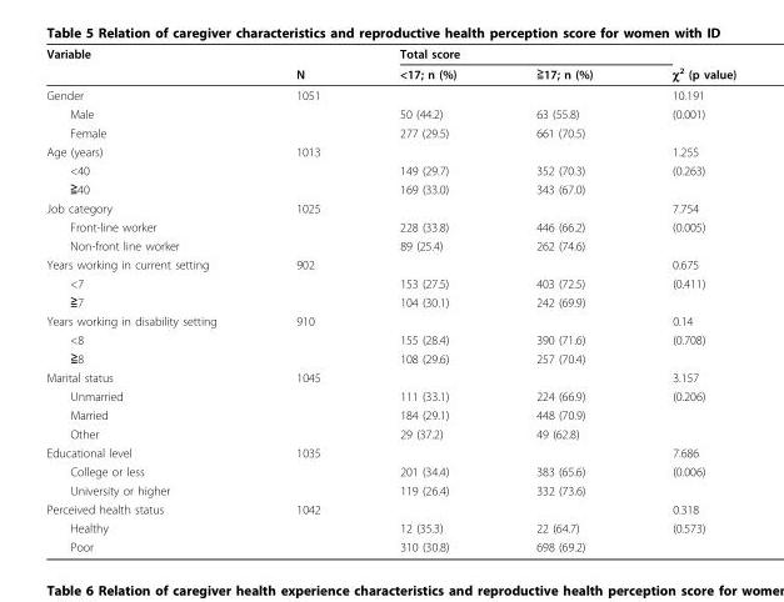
<table><thead><tr><td rowspan="2">Variable</td><td rowspan="2">N</td><td colspan="2">Total score</td><td rowspan="2">χ<sup>2</sup> (p value)</td></tr><tr><td>&lt;17; n (%)</td><td>≧17; n (%)</td></tr></thead><tbody><tr><td>Gender</td><td>1051</td><td></td><td></td><td>10.191</td></tr><tr><td>Male</td><td></td><td>50 (44.2)</td><td>63 (55.8)</td><td>(0.001)</td></tr><tr><td>Female</td><td></td><td>277 (29.5)</td><td>661 (70.5)</td><td></td></tr><tr><td>Age (years)</td><td>1013</td><td></td><td></td><td>1.255</td></tr><tr><td>&lt;40</td><td></td><td>149 (29.7)</td><td>352 (70.3)</td><td>(0.263)</td></tr><tr><td>≧40</td><td></td><td>169 (33.0)</td><td>343 (67.0)</td><td></td></tr><tr><td>Job category</td><td>1025</td><td></td><td></td><td>7.754</td></tr><tr><td>Front-line worker</td><td></td><td>228 (33.8)</td><td>446 (66.2)</td><td>(0.005)</td></tr><tr><td>Non-front line worker</td><td></td><td>89 (25.4)</td><td>262 (74.6)</td><td></td></tr><tr><td>Years working in current setting</td><td>902</td><td></td><td></td><td>0.675</td></tr><tr><td>&lt;7</td><td></td><td>153 (27.5)</td><td>403 (72.5)</td><td>(0.411)</td></tr><tr><td>≧7</td><td></td><td>104 (30.1)</td><td>242 (69.9)</td><td></td></tr><tr><td>Years working in disability setting</td><td>910</td><td></td><td></td><td>0.14</td></tr><tr><td>&lt;8</td><td></td><td>155 (28.4)</td><td>390 (71.6)</td><td>(0.708)</td></tr><tr><td>≧8</td><td></td><td>108 (29.6)</td><td>257 (70.4)</td><td></td></tr><tr><td>Marital status</td><td>1045</td><td></td><td></td><td>3.157</td></tr><tr><td>Unmarried</td><td></td><td>111 (33.1)</td><td>224 (66.9)</td><td>(0.206)</td></tr><tr><td>Married</td><td></td><td>184 (29.1)</td><td>448 (70.9)</td><td></td></tr><tr><td>Other</td><td></td><td>29 (37.2)</td><td>49 (62.8)</td><td></td></tr><tr><td>Educational level</td><td>1035</td><td></td><td></td><td>7.686</td></tr><tr><td>College or less</td><td></td><td>201 (34.4)</td><td>383 (65.6)</td><td>(0.006)</td></tr><tr><td>University or higher</td><td></td><td>119 (26.4)</td><td>332 (73.6)</td><td></td></tr><tr><td>Perceived health status</td><td>1042</td><td></td><td></td><td>0.318</td></tr><tr><td>Healthy</td><td></td><td>12 (35.3)</td><td>22 (64.7)</td><td>(0.573)</td></tr><tr><td>Poor</td><td></td><td>310 (30.8)</td><td>698 (69.2)</td><td></td></tr></tbody></table>